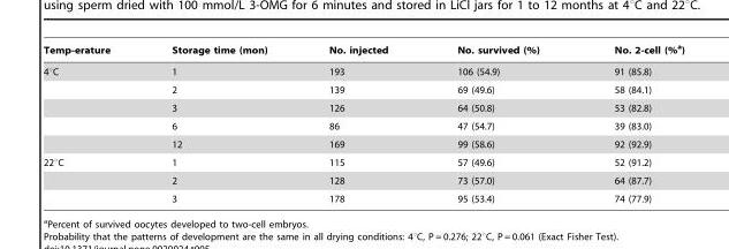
<table><thead><tr><td>Temp-erature</td><td>Storage time (mon)</td><td>No. injected</td><td>No. survived (%)</td><td>No. 2-cell (%<sup>a</sup>)</td></tr></thead><tbody><tr><td rowspan="5">4°C</td><td>1</td><td>193</td><td>106 (54.9)</td><td>91 (85.8)</td></tr><tr><td>2</td><td>139</td><td>69 (49.6)</td><td>58 (84.1)</td></tr><tr><td>3</td><td>126</td><td>64 (50.8)</td><td>53 (82.8)</td></tr><tr><td>6</td><td>86</td><td>47 (54.7)</td><td>39 (83.0)</td></tr><tr><td>12</td><td>169</td><td>99 (58.6)</td><td>92 (92.9)</td></tr><tr><td rowspan="3">22°C</td><td>1</td><td>115</td><td>57 (49.6)</td><td>52 (91.2)</td></tr><tr><td>2</td><td>128</td><td>73 (57.0)</td><td>64 (87.7)</td></tr><tr><td>3</td><td>178</td><td>95 (53.4)</td><td>74 (77.9)</td></tr></tbody></table>